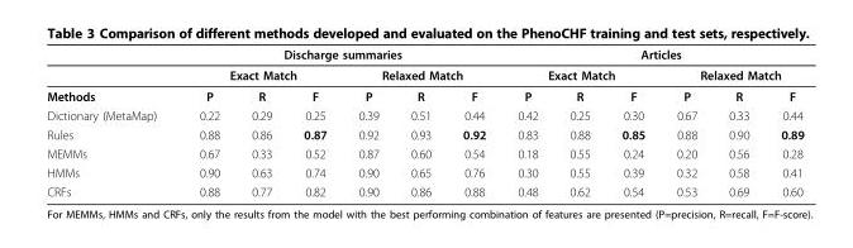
<table><thead><tr><td rowspan="3">Methods</td><td colspan="6">Discharge summaries</td><td colspan="6">Articles</td></tr><tr><td colspan="3">Exact Match</td><td colspan="3">Relaxed Match</td><td colspan="3">Exact Match</td><td colspan="3">Relaxed Match</td></tr><tr><td>P</td><td>R</td><td>F</td><td>P</td><td>R</td><td>F</td><td>P</td><td>R</td><td>F</td><td>P</td><td>R</td><td>F</td></tr></thead><tbody><tr><td>Dictionary (MetaMap)</td><td>0.22</td><td>0.29</td><td>0.25</td><td>0.39</td><td>0.51</td><td>0.44</td><td>0.42</td><td>0.25</td><td>0.30</td><td>0.67</td><td>0.33</td><td>0.44</td></tr><tr><td>Rules</td><td>0.88</td><td>0.86</td><td>0.87</td><td>0.92</td><td>0.93</td><td>0.92</td><td>0.83</td><td>0.88</td><td>0.85</td><td>0.88</td><td>0.90</td><td>0.89</td></tr><tr><td>MEMMs</td><td>0.67</td><td>0.33</td><td>0.52</td><td>0.87</td><td>0.60</td><td>0.54</td><td>0.18</td><td>0.55</td><td>0.24</td><td>0.20</td><td>0.56</td><td>0.28</td></tr><tr><td>HMMs</td><td>0.90</td><td>0.63</td><td>0.74</td><td>0.90</td><td>0.65</td><td>0.76</td><td>0.30</td><td>0.55</td><td>0.39</td><td>0.32</td><td>0.58</td><td>0.41</td></tr><tr><td>CRFs</td><td>0.88</td><td>0.77</td><td>0.82</td><td>0.90</td><td>0.86</td><td>0.88</td><td>0.48</td><td>0.62</td><td>0.54</td><td>0.53</td><td>0.69</td><td>0.60</td></tr></tbody></table>